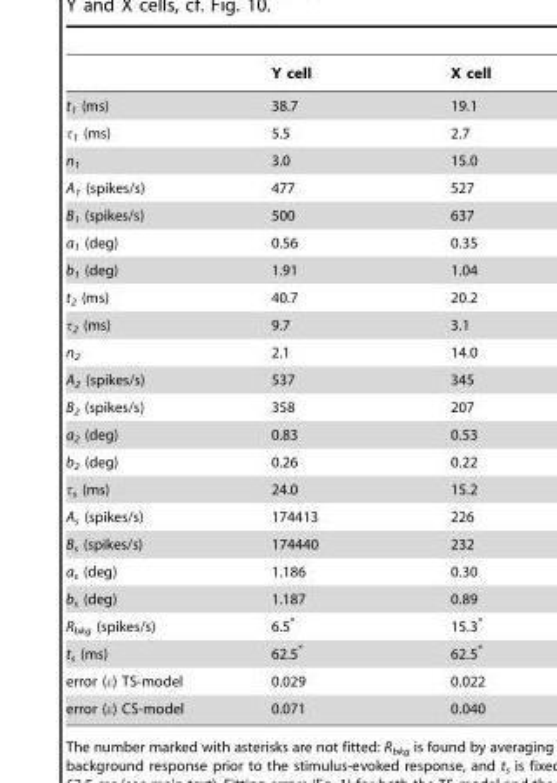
<table><thead><tr><td></td><td>Y cell</td><td>X cell</td></tr></thead><tbody><tr><td>t<sub>1</sub> (ms)</td><td>38.7</td><td>19.1</td></tr><tr><td>τ<sub>1</sub> (ms)</td><td>5.5</td><td>2.7</td></tr><tr><td>n<sub>1</sub></td><td>3.0</td><td>15.0</td></tr><tr><td>A<sub>1</sub> (spikes/s)</td><td>477</td><td>527</td></tr><tr><td>B<sub>1</sub> (spikes/s)</td><td>500</td><td>637</td></tr><tr><td>a<sub>1</sub> (deg)</td><td>0.56</td><td>0.35</td></tr><tr><td>b<sub>1</sub> (deg)</td><td>1.91</td><td>1.04</td></tr><tr><td>t<sub>2</sub> (ms)</td><td>40.7</td><td>20.2</td></tr><tr><td>τ<sub>2</sub> (ms)</td><td>9.7</td><td>3.1</td></tr><tr><td>n<sub>2</sub></td><td>2.1</td><td>14.0</td></tr><tr><td>A<sub>2</sub> (spikes/s)</td><td>537</td><td>345</td></tr><tr><td>B<sub>2</sub> (spikes/s)</td><td>358</td><td>207</td></tr><tr><td>a<sub>2</sub> (deg)</td><td>0.83</td><td>0.53</td></tr><tr><td>b<sub>2</sub> (deg)</td><td>0.26</td><td>0.22</td></tr><tr><td>τ<sub>s</sub> (ms)</td><td>24.0</td><td>15.2</td></tr><tr><td>A<sub>s</sub> (spikes/s)</td><td>174413</td><td>226</td></tr><tr><td>B<sub>s</sub> (spikes/s)</td><td>174440</td><td>232</td></tr><tr><td>a<sub>s</sub> (deg)</td><td>1.186</td><td>0.30</td></tr><tr><td>b<sub>s</sub> (deg)</td><td>1.187</td><td>0.89</td></tr><tr><td>R<sub>bkg</sub> (spikes/s)</td><td>6.5*</td><td>15.3*</td></tr><tr><td>t<sub>s</sub> (ms)</td><td>62.5*</td><td>62.5*</td></tr><tr><td>error (ε) TS-model</td><td>0.029</td><td>0.022</td></tr><tr><td>error (ε) CS-model</td><td>0.071</td><td>0.040</td></tr></tbody></table>